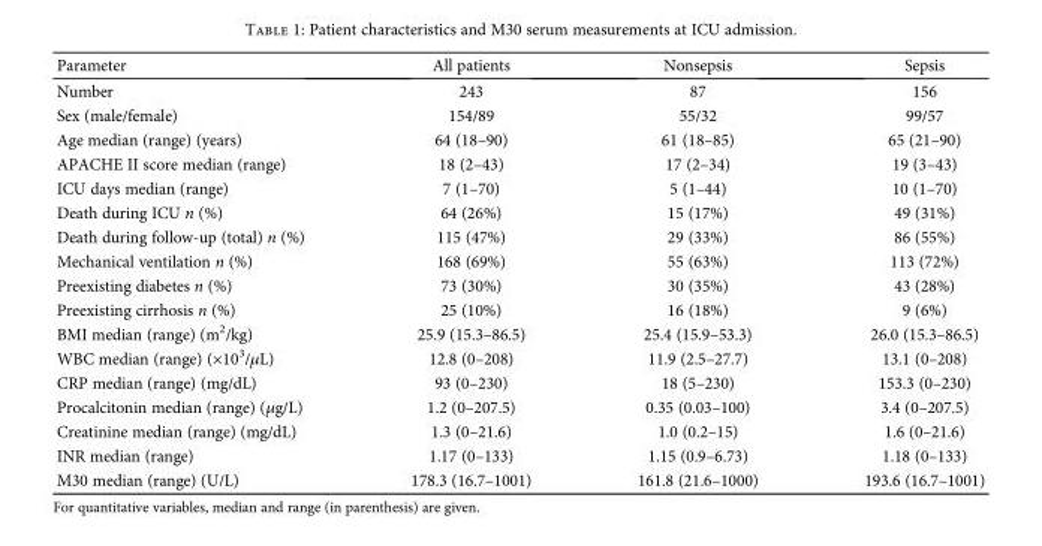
<table><thead><tr><td>Parameter</td><td>All patients</td><td>Nonsepsis</td><td>Sepsis</td></tr></thead><tbody><tr><td>Number</td><td>243</td><td>87</td><td>156</td></tr><tr><td>Sex (male/female)</td><td>154/89</td><td>55/32</td><td>99/57</td></tr><tr><td>Age median (range) (years)</td><td>64 (18–90)</td><td>61 (18–85)</td><td>65 (21–90)</td></tr><tr><td>APACHE II score median (range)</td><td>18 (2–43)</td><td>17 (2–34)</td><td>19 (3–43)</td></tr><tr><td>ICU days median (range)</td><td>7 (1–70)</td><td>5 (1–44)</td><td>10 (1–70)</td></tr><tr><td>Death during ICU n (%)</td><td>64 (26%)</td><td>15 (17%)</td><td>49 (31%)</td></tr><tr><td>Death during follow-up (total) n (%)</td><td>115 (47%)</td><td>29 (33%)</td><td>86 (55%)</td></tr><tr><td>Mechanical ventilation n (%)</td><td>168 (69%)</td><td>55 (63%)</td><td>113 (72%)</td></tr><tr><td>Preexisting diabetes n (%)</td><td>73 (30%)</td><td>30 (35%)</td><td>43 (28%)</td></tr><tr><td>Preexisting cirrhosis n (%)</td><td>25 (10%)</td><td>16 (18%)</td><td>9 (6%)</td></tr><tr><td>BMI median (range) (m<sup>2</sup>/kg)</td><td>25.9 (15.3–86.5)</td><td>25.4 (15.9–53.3)</td><td>26.0 (15.3–86.5)</td></tr><tr><td>WBC median (range) (×10<sup>3</sup>/μL)</td><td>12.8 (0–208)</td><td>11.9 (2.5–27.7)</td><td>13.1 (0–208)</td></tr><tr><td>CRP median (range) (mg/dL)</td><td>93 (0–230)</td><td>18 (5–230)</td><td>153.3 (0–230)</td></tr><tr><td>Procalcitonin median (range) (μg/L)</td><td>1.2 (0–207.5)</td><td>0.35 (0.03–100)</td><td>3.4 (0–207.5)</td></tr><tr><td>Creatinine median (range) (mg/dL)</td><td>1.3 (0–21.6)</td><td>1.0 (0.2–15)</td><td>1.6 (0–21.6)</td></tr><tr><td>INR median (range)</td><td>1.17 (0–133)</td><td>1.15 (0.9–6.73)</td><td>1.18 (0–133)</td></tr><tr><td>M30 median (range) (U/L)</td><td>178.3 (16.7–1001)</td><td>161.8 (21.6–1000)</td><td>193.6 (16.7–1001)</td></tr></tbody></table>